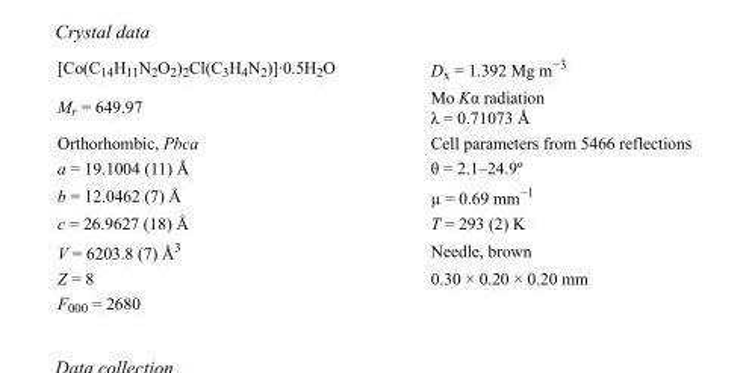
<table><tbody><tr><td>[Co(C<sub>14</sub>H<sub>11</sub>N<sub>2</sub>O<sub>2</sub>)<sub>2</sub>Cl(C<sub>3</sub>H<sub>4</sub>N<sub>2</sub>)]·0.5H<sub>2</sub>O</td><td>D<sub>x</sub> = 1.392 Mg m<sup>−3</sup></td></tr><tr><td>M<sub>r</sub> = 649.97</td><td>Mo Kα radiation λ = 0.71073 Å</td></tr><tr><td>Orthorhombic, Pbca</td><td>Cell parameters from 5466 reflections</td></tr><tr><td>a = 19.1004 (11) Å</td><td>θ = 2.1–24.9º</td></tr><tr><td>b = 12.0462 (7) Å</td><td>µ = 0.69 mm<sup>−1</sup></td></tr><tr><td>c = 26.9627 (18) Å</td><td>T = 293 (2) K</td></tr><tr><td>V = 6203.8 (7) Å<sup>3</sup></td><td>Needle, brown</td></tr><tr><td>Z = 8</td><td>0.30 × 0.20 × 0.20 mm</td></tr><tr><td>F000 = 2680</td><td></td></tr></tbody></table>